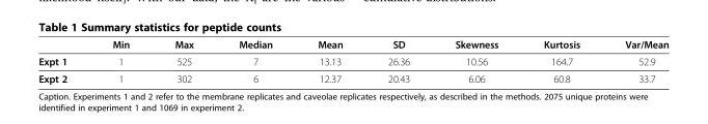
<table><thead><tr><td></td><td>Min</td><td>Max</td><td>Median</td><td>Mean</td><td>SD</td><td>Skewness</td><td>Kurtosis</td><td>Var/Mean</td></tr></thead><tbody><tr><td>Expt 1</td><td>1</td><td>525</td><td>7</td><td>13.13</td><td>26.36</td><td>10.56</td><td>164.7</td><td>52.9</td></tr><tr><td>Expt 2</td><td>1</td><td>302</td><td>6</td><td>12.37</td><td>20.43</td><td>6.06</td><td>60.8</td><td>33.7</td></tr></tbody></table>